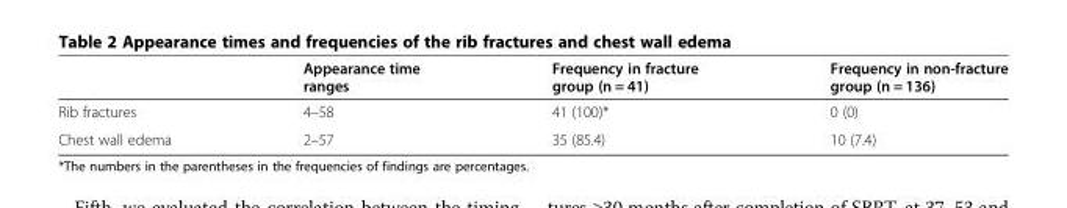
<table><thead><tr><td></td><td>Appearance time ranges</td><td>Frequency in fracture group (n = 41)</td><td>Frequency in non-fracture group (n = 136)</td></tr></thead><tbody><tr><td>Rib fractures</td><td>4–58</td><td>41 (100)*</td><td>0 (0)</td></tr><tr><td>Chest wall edema</td><td>2–57</td><td>35 (85.4)</td><td>10 (7.4)</td></tr></tbody></table>